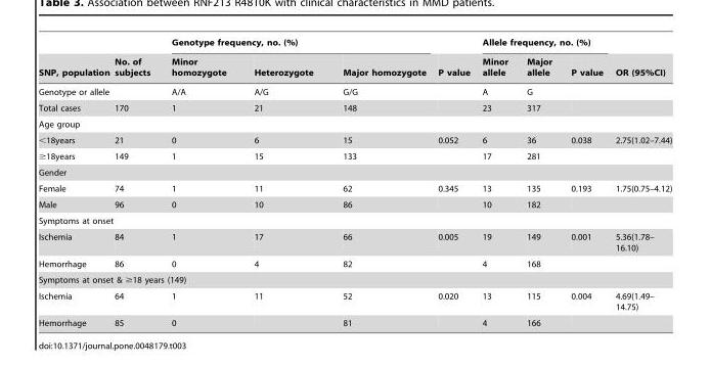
<table><thead><tr><td rowspan="2">SNP, population</td><td rowspan="2">No. of subjects</td><td colspan="3">Genotype frequency, no. (%)</td><td rowspan="2">P value</td><td colspan="3">Allele frequency, no. (%)</td><td rowspan="2">OR (95%CI)</td></tr><tr><td>Minor homozygote</td><td>Heterozygote</td><td>Major homozygote</td><td>Minor allele</td><td>Major allele</td><td>P value</td></tr></thead><tbody><tr><td>Genotype or allele</td><td></td><td>A/A</td><td>A/G</td><td>G/G</td><td></td><td>A</td><td>G</td><td></td><td></td></tr><tr><td>Total cases</td><td>170</td><td>1</td><td>21</td><td>148</td><td></td><td>23</td><td>317</td><td></td><td></td></tr><tr><td colspan="10">Age group</td></tr><tr><td>&lt;18years</td><td>21</td><td>0</td><td>6</td><td>15</td><td>0.052</td><td>6</td><td>36</td><td>0.038</td><td>2.75(1.02–7.44)</td></tr><tr><td>≥18years</td><td>149</td><td>1</td><td>15</td><td>133</td><td></td><td>17</td><td>281</td><td></td><td></td></tr><tr><td colspan="10">Gender</td></tr><tr><td>Female</td><td>74</td><td>1</td><td>11</td><td>62</td><td>0.345</td><td>13</td><td>135</td><td>0.193</td><td>1.75(0.75–4.12)</td></tr><tr><td>Male</td><td>96</td><td>0</td><td>10</td><td>86</td><td></td><td>10</td><td>182</td><td></td><td></td></tr><tr><td colspan="10">Symptoms at onset</td></tr><tr><td>Ischemia</td><td>84</td><td>1</td><td>17</td><td>66</td><td>0.005</td><td>19</td><td>149</td><td>0.001</td><td>5.36(1.78– 16.10)</td></tr><tr><td>Hemorrhage</td><td>86</td><td>0</td><td>4</td><td>82</td><td></td><td>4</td><td>168</td><td></td><td></td></tr><tr><td colspan="10">Symptoms at onset &amp; ≥18 years (149)</td></tr><tr><td>Ischemia</td><td>64</td><td>1</td><td>11</td><td>52</td><td>0.020</td><td>13</td><td>115</td><td>0.004</td><td>4.69(1.49– 14.75)</td></tr><tr><td>Hemorrhage</td><td>85</td><td>0</td><td></td><td>81</td><td></td><td>4</td><td>166</td><td></td><td></td></tr></tbody></table>